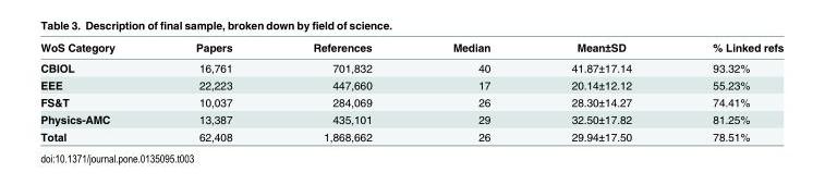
<table><thead><tr><td>WoS Category</td><td>Papers</td><td>References</td><td>Median</td><td>Mean±SD</td><td>% Linked refs</td></tr></thead><tbody><tr><td>CBIOL</td><td>16,761</td><td>701,832</td><td>40</td><td>41.87±17.14</td><td>93.32%</td></tr><tr><td>EEE</td><td>22,223</td><td>447,660</td><td>17</td><td>20.14±12.12</td><td>55.23%</td></tr><tr><td>FS&amp;T</td><td>10,037</td><td>284,069</td><td>26</td><td>28.30±14.27</td><td>74.41%</td></tr><tr><td>Physics-AMC</td><td>13,387</td><td>435,101</td><td>29</td><td>32.50±17.82</td><td>81.25%</td></tr><tr><td>Total</td><td>62,408</td><td>1,868,662</td><td>26</td><td>29.94±17.50</td><td>78.51%</td></tr></tbody></table>